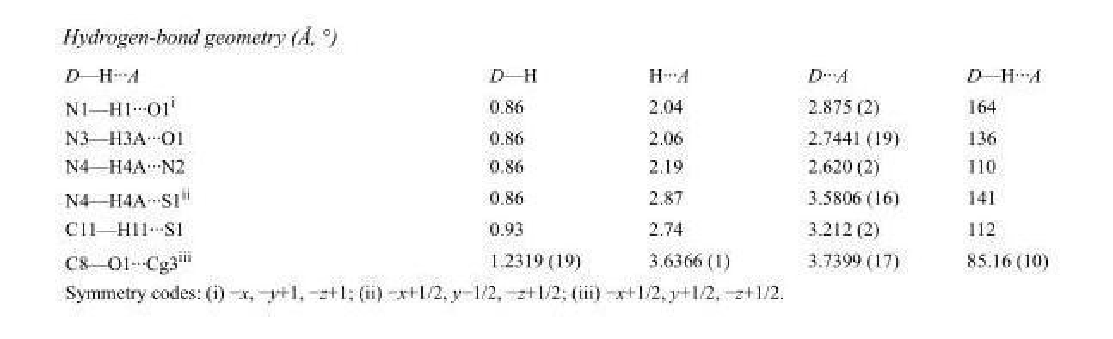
<table><tbody><tr><td>D—H···A</td><td>D—H</td><td>H···A</td><td>D···A</td><td>D—H···A</td></tr><tr><td>N1—H1···O1<sup>i</sup></td><td>0.86</td><td>2.04</td><td>2.875 (2)</td><td>164</td></tr><tr><td>N3—H3A···O1</td><td>0.86</td><td>2.06</td><td>2.7441 (19)</td><td>136</td></tr><tr><td>N4—H4A···N2</td><td>0.86</td><td>2.19</td><td>2.620 (2)</td><td>110</td></tr><tr><td>N4—H4A···S1<sup>ii</sup></td><td>0.86</td><td>2.87</td><td>3.5806 (16)</td><td>141</td></tr><tr><td>C11—H11···S1</td><td>0.93</td><td>2.74</td><td>3.212 (2)</td><td>112</td></tr><tr><td>C8—O1···Cg3<sup>iii</sup></td><td>1.2319 (19)</td><td>3.6366 (1)</td><td>3.7399 (17)</td><td>85.16 (10)</td></tr></tbody></table>